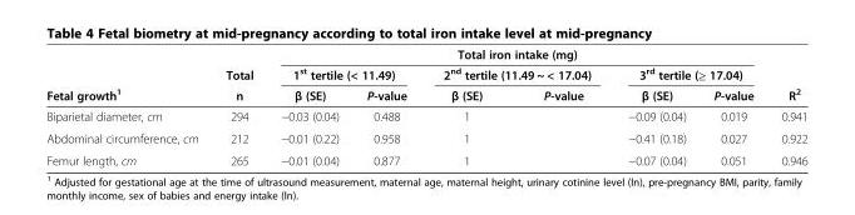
<table><thead><tr><td rowspan="3">Fetal growth<sup>1</sup></td><td rowspan="3">Total n</td><td colspan="6">Total iron intake (mg)</td><td rowspan="3">R<sup>2</sup></td></tr><tr><td colspan="2">1<sup>st</sup> tertile (&lt; 11.49)</td><td colspan="2">2<sup>nd</sup> tertile (11.49 ~ &lt; 17.04)</td><td colspan="2">3<sup>rd</sup> tertile (≥ 17.04)</td></tr><tr><td>β (SE)</td><td>P-value</td><td>β (SE)</td><td>P-value</td><td>β (SE)</td><td>P-value</td></tr></thead><tbody><tr><td>Biparietal diameter, cm</td><td>294</td><td>−0.03 (0.04)</td><td>0.488</td><td>1</td><td></td><td>−0.09 (0.04)</td><td>0.019</td><td>0.941</td></tr><tr><td>Abdominal circumference, cm</td><td>212</td><td>−0.01 (0.22)</td><td>0.958</td><td>1</td><td></td><td>−0.41 (0.18)</td><td>0.027</td><td>0.922</td></tr><tr><td>Femur length, cm</td><td>265</td><td>−0.01 (0.04)</td><td>0.877</td><td>1</td><td></td><td>−0.07 (0.04)</td><td>0.051</td><td>0.946</td></tr></tbody></table>